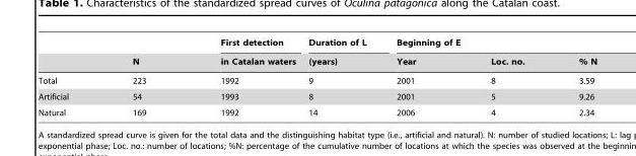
<table><thead><tr><td rowspan="2"></td><td rowspan="2">N</td><td rowspan="2">First detection in Catalan waters</td><td rowspan="2">Duration of L (years)</td><td colspan="3">Beginning of E</td></tr><tr><td>Year</td><td>Loc. no.</td><td>% N</td></tr></thead><tbody><tr><td>Total</td><td>223</td><td>1992</td><td>9</td><td>2001</td><td>8</td><td>3.59</td></tr><tr><td>Artificial</td><td>54</td><td>1993</td><td>8</td><td>2001</td><td>5</td><td>9.26</td></tr><tr><td>Natural</td><td>169</td><td>1992</td><td>14</td><td>2006</td><td>4</td><td>2.34</td></tr></tbody></table>